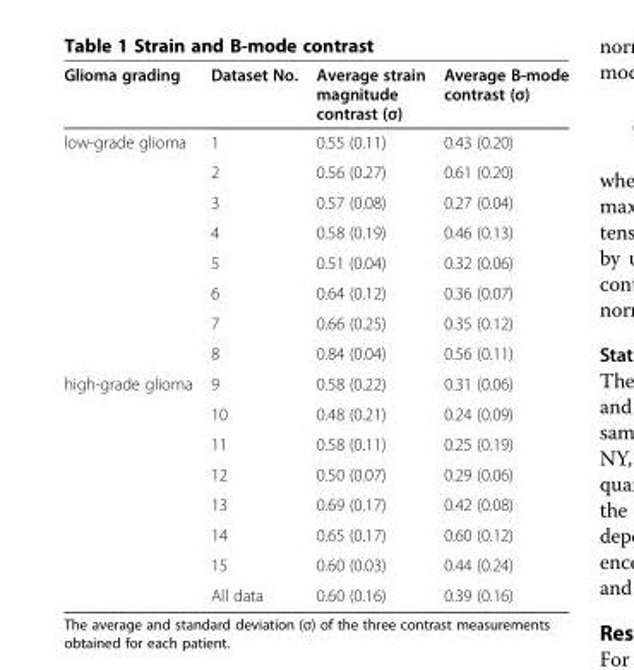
<table><thead><tr><td>Glioma grading</td><td>Dataset No.</td><td>Average strain magnitude contrast (σ)</td><td>Average B-mode contrast (σ)</td></tr></thead><tbody><tr><td rowspan="8">low-grade glioma</td><td>1</td><td>0.55 (0.11)</td><td>0.43 (0.20)</td></tr><tr><td>2</td><td>0.56 (0.27)</td><td>0.61 (0.20)</td></tr><tr><td>3</td><td>0.57 (0.08)</td><td>0.27 (0.04)</td></tr><tr><td>4</td><td>0.58 (0.19)</td><td>0.46 (0.13)</td></tr><tr><td>5</td><td>0.51 (0.04)</td><td>0.32 (0.06)</td></tr><tr><td>6</td><td>0.64 (0.12)</td><td>0.36 (0.07)</td></tr><tr><td>7</td><td>0.66 (0.25)</td><td>0.35 (0.12)</td></tr><tr><td>8</td><td>0.84 (0.04)</td><td>0.56 (0.11)</td></tr><tr><td rowspan="8">high-grade glioma</td><td>9</td><td>0.58 (0.22)</td><td>0.31 (0.06)</td></tr><tr><td>10</td><td>0.48 (0.21)</td><td>0.24 (0.09)</td></tr><tr><td>11</td><td>0.58 (0.11)</td><td>0.25 (0.19)</td></tr><tr><td>12</td><td>0.50 (0.07)</td><td>0.29 (0.06)</td></tr><tr><td>13</td><td>0.69 (0.17)</td><td>0.42 (0.08)</td></tr><tr><td>14</td><td>0.65 (0.17)</td><td>0.60 (0.12)</td></tr><tr><td>15</td><td>0.60 (0.03)</td><td>0.44 (0.24)</td></tr><tr><td>All data</td><td>0.60 (0.16)</td><td>0.39 (0.16)</td></tr></tbody></table>